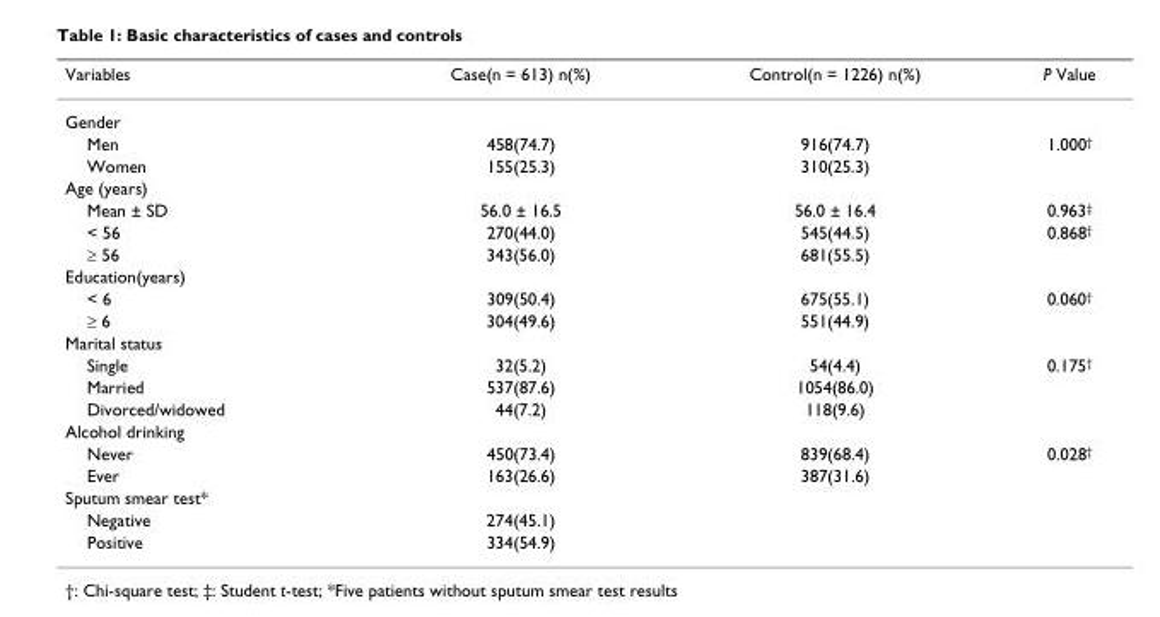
<table><thead><tr><td>Variables</td><td>Case(n = 613) n(%)</td><td>Control(n = 1226) n(%)</td><td>P Value</td></tr></thead><tbody><tr><td colspan="4">Gender</td></tr><tr><td>Men</td><td>458(74.7)</td><td>916(74.7)</td><td>1.000<sup>†</sup></td></tr><tr><td>Women</td><td>155(25.3)</td><td>310(25.3)</td><td></td></tr><tr><td colspan="4">Age (years)</td></tr><tr><td>Mean ± SD</td><td>56.0 ± 16.5</td><td>56.0 ± 16.4</td><td>0.963<sup>‡</sup></td></tr><tr><td>&lt; 56</td><td>270(44.0)</td><td>545(44.5)</td><td>0.868<sup>†</sup></td></tr><tr><td>≥ 56</td><td>343(56.0)</td><td>681(55.5)</td><td></td></tr><tr><td colspan="4">Education(years)</td></tr><tr><td>&lt; 6</td><td>309(50.4)</td><td>675(55.1)</td><td>0.060<sup>†</sup></td></tr><tr><td>≥ 6</td><td>304(49.6)</td><td>551(44.9)</td><td></td></tr><tr><td colspan="4">Marital status</td></tr><tr><td>Single</td><td>32(5.2)</td><td>54(4.4)</td><td>0.175<sup>†</sup></td></tr><tr><td>Married</td><td>537(87.6)</td><td>1054(86.0)</td><td></td></tr><tr><td>Divorced/widowed</td><td>44(7.2)</td><td>118(9.6)</td><td></td></tr><tr><td colspan="4">Alcohol drinking</td></tr><tr><td>Never</td><td>450(73.4)</td><td>839(68.4)</td><td>0.028<sup>†</sup></td></tr><tr><td>Ever</td><td>163(26.6)</td><td>387(31.6)</td><td></td></tr><tr><td colspan="4">Sputum smear test*</td></tr><tr><td>Negative</td><td>274(45.1)</td><td></td><td></td></tr><tr><td>Positive</td><td>334(54.9)</td><td></td><td></td></tr></tbody></table>